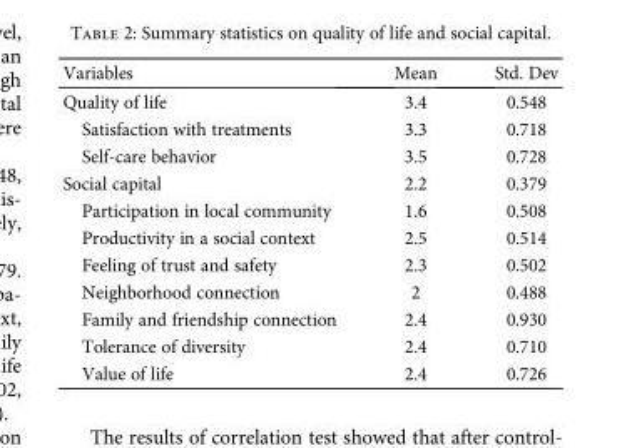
<table><thead><tr><td>Variables</td><td>Mean</td><td>Std. Dev</td></tr></thead><tbody><tr><td>Quality of life</td><td>3.4</td><td>0.548</td></tr><tr><td>Satisfaction with treatments</td><td>3.3</td><td>0.718</td></tr><tr><td>Self-care behavior</td><td>3.5</td><td>0.728</td></tr><tr><td>Social capital</td><td>2.2</td><td>0.379</td></tr><tr><td>Participation in local community</td><td>1.6</td><td>0.508</td></tr><tr><td>Productivity in a social context</td><td>2.5</td><td>0.514</td></tr><tr><td>Feeling of trust and safety</td><td>2.3</td><td>0.502</td></tr><tr><td>Neighborhood connection</td><td>2</td><td>0.488</td></tr><tr><td>Family and friendship connection</td><td>2.4</td><td>0.930</td></tr><tr><td>Tolerance of diversity</td><td>2.4</td><td>0.710</td></tr><tr><td>Value of life</td><td>2.4</td><td>0.726</td></tr></tbody></table>